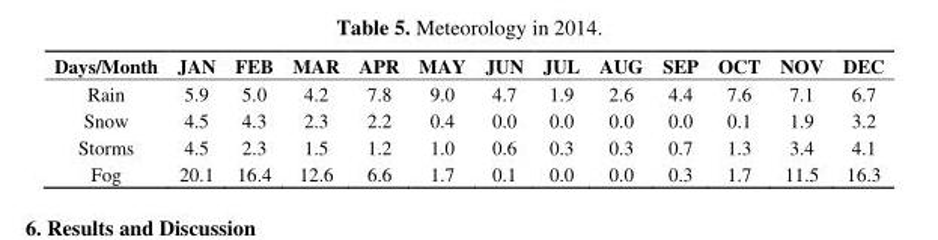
<table><thead><tr><td>Days/Month</td><td>JAN</td><td>FEB</td><td>MAR</td><td>APR</td><td>MAY</td><td>JUN</td><td>JUL</td><td>AUG</td><td>SEP</td><td>OCT</td><td>NOV</td><td>DEC</td></tr></thead><tbody><tr><td>Rain</td><td>5.9</td><td>5.0</td><td>4.2</td><td>7.8</td><td>9.0</td><td>4.7</td><td>1.9</td><td>2.6</td><td>4.4</td><td>7.6</td><td>7.1</td><td>6.7</td></tr><tr><td>Snow</td><td>4.5</td><td>4.3</td><td>2.3</td><td>2.2</td><td>0.4</td><td>0.0</td><td>0.0</td><td>0.0</td><td>0.0</td><td>0.1</td><td>1.9</td><td>3.2</td></tr><tr><td>Storms</td><td>4.5</td><td>2.3</td><td>1.5</td><td>1.2</td><td>1.0</td><td>0.6</td><td>0.3</td><td>0.3</td><td>0.7</td><td>1.3</td><td>3.4</td><td>4.1</td></tr><tr><td>Fog</td><td>20.1</td><td>16.4</td><td>12.6</td><td>6.6</td><td>1.7</td><td>0.1</td><td>0.0</td><td>0.0</td><td>0.3</td><td>1.7</td><td>11.5</td><td>16.3</td></tr></tbody></table>